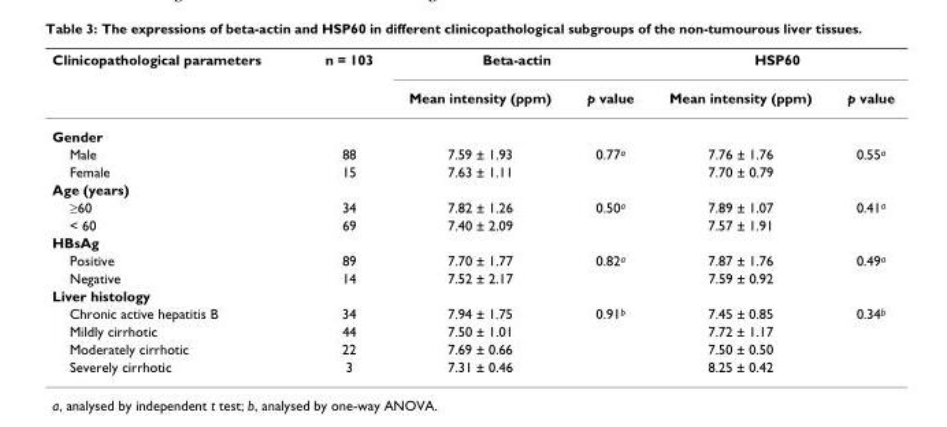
<table><thead><tr><td rowspan="2">Clinicopathological parameters</td><td rowspan="2">n = 103</td><td colspan="2">Beta-actin</td><td colspan="2">HSP60</td></tr><tr><td>Mean intensity (ppm)</td><td>p value</td><td>Mean intensity (ppm)</td><td>p value</td></tr></thead><tbody><tr><td colspan="6">Gender</td></tr><tr><td>Male</td><td>88</td><td>7.59 ± 1.93</td><td>0.77<sup>a</sup></td><td>7.76 ± 1.76</td><td>0.55<sup>a</sup></td></tr><tr><td>Female</td><td>15</td><td>7.63 ± 1.11</td><td></td><td>7.70 ± 0.79</td><td></td></tr><tr><td colspan="6">Age (years)</td></tr><tr><td>≥60</td><td>34</td><td>7.82 ± 1.26</td><td>0.50<sup>a</sup></td><td>7.89 ± 1.07</td><td>0.41<sup>a</sup></td></tr><tr><td>&lt; 60</td><td>69</td><td>7.40 ± 2.09</td><td></td><td>7.57 ± 1.91</td><td></td></tr><tr><td colspan="6">HBsAg</td></tr><tr><td>Positive</td><td>89</td><td>7.70 ± 1.77</td><td>0.82<sup>a</sup></td><td>7.87 ± 1.76</td><td>0.49<sup>a</sup></td></tr><tr><td>Negative</td><td>14</td><td>7.52 ± 2.17</td><td></td><td>7.59 ± 0.92</td><td></td></tr><tr><td colspan="6">Liver histology</td></tr><tr><td>Chronic active hepatitis B</td><td>34</td><td>7.94 ± 1.75</td><td>0.91<sup>b</sup></td><td>7.45 ± 0.85</td><td>0.34<sup>b</sup></td></tr><tr><td>Mildly cirrhotic</td><td>44</td><td>7.50 ± 1.01</td><td></td><td>7.72 ± 1.17</td><td></td></tr><tr><td>Moderately cirrhotic</td><td>22</td><td>7.69 ± 0.66</td><td></td><td>7.50 ± 0.50</td><td></td></tr><tr><td>Severely cirrhotic</td><td>3</td><td>7.31 ± 0.46</td><td></td><td>8.25 ± 0.42</td><td></td></tr></tbody></table>